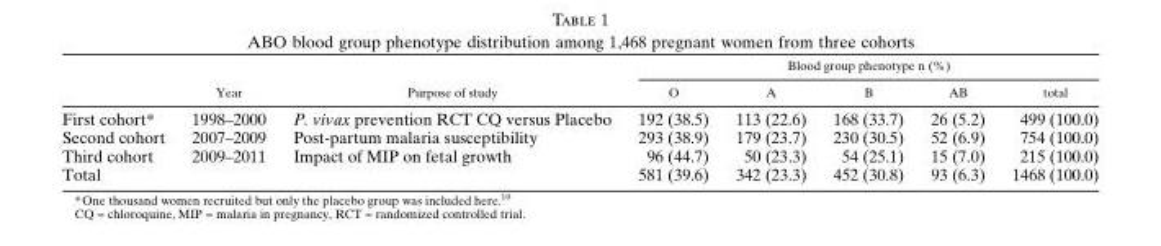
<table><thead><tr><td rowspan="2"></td><td rowspan="2">Year</td><td rowspan="2">Purpose of study</td><td colspan="5">Blood group phenotype n (%)</td></tr><tr><td>O</td><td>A</td><td>B</td><td>AB</td><td>total</td></tr></thead><tbody><tr><td>First cohort*</td><td>1998–2000</td><td>P. vivax prevention RCT CQ versus Placebo</td><td>192 (38.5)</td><td>113 (22.6)</td><td>168 (33.7)</td><td>26 (5.2)</td><td>499 (100.0)</td></tr><tr><td>Second cohort</td><td>2007–2009</td><td>Post-partum malaria susceptibility</td><td>293 (38.9)</td><td>179 (23.7)</td><td>230 (30.5)</td><td>52 (6.9)</td><td>754 (100.0)</td></tr><tr><td>Third cohort</td><td>2009–2011</td><td>Impact of MIP on fetal growth</td><td>96 (44.7)</td><td>50 (23.3)</td><td>54 (25.1)</td><td>15 (7.0)</td><td>215 (100.0)</td></tr><tr><td>Total</td><td></td><td></td><td>581 (39.6)</td><td>342 (23.3)</td><td>452 (30.8)</td><td>93 (6.3)</td><td>1468 (100.0)</td></tr></tbody></table>